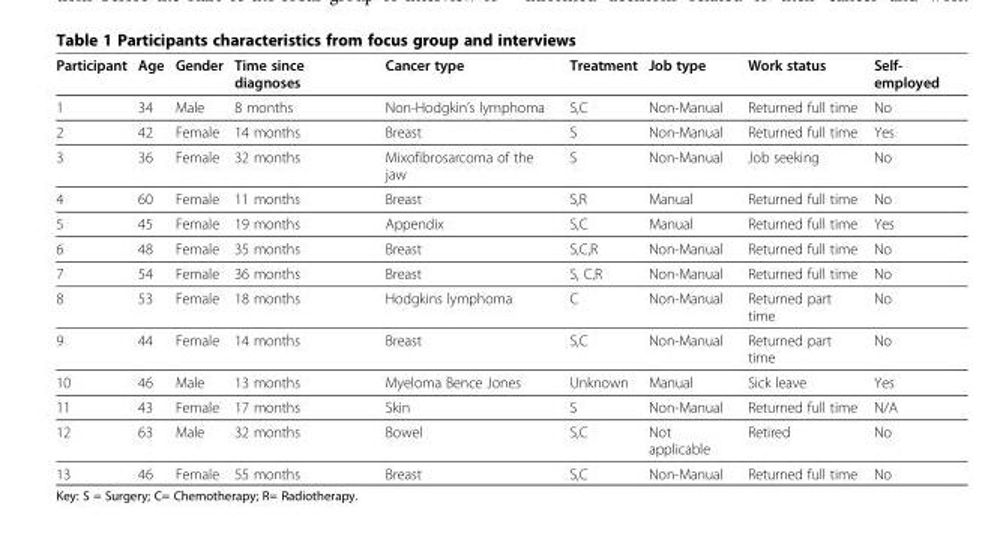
<table><thead><tr><td>Participant</td><td>Age</td><td>Gender</td><td>Time since diagnoses</td><td>Cancer type</td><td>Treatment</td><td>Job type</td><td>Work status</td><td>Self- employed</td></tr></thead><tbody><tr><td>1</td><td>34</td><td>Male</td><td>8 months</td><td>Non-Hodgkin’s lymphoma</td><td>S,C</td><td>Non-Manual</td><td>Returned full time</td><td>No</td></tr><tr><td>2</td><td>42</td><td>Female</td><td>14 months</td><td>Breast</td><td>S</td><td>Non-Manual</td><td>Returned full time</td><td>Yes</td></tr><tr><td>3</td><td>36</td><td>Female</td><td>32 months</td><td>Mixofibrosarcoma of the jaw</td><td>S</td><td>Non-Manual</td><td>Job seeking</td><td>No</td></tr><tr><td>4</td><td>60</td><td>Female</td><td>11 months</td><td>Breast</td><td>S,R</td><td>Manual</td><td>Returned full time</td><td>No</td></tr><tr><td>5</td><td>45</td><td>Female</td><td>19 months</td><td>Appendix</td><td>S,C</td><td>Manual</td><td>Returned full time</td><td>Yes</td></tr><tr><td>6</td><td>48</td><td>Female</td><td>35 months</td><td>Breast</td><td>S,C,R</td><td>Non-Manual</td><td>Returned full time</td><td>No</td></tr><tr><td>7</td><td>54</td><td>Female</td><td>36 months</td><td>Breast</td><td>S, C,R</td><td>Non-Manual</td><td>Returned full time</td><td>No</td></tr><tr><td>8</td><td>53</td><td>Female</td><td>18 months</td><td>Hodgkins lymphoma</td><td>C</td><td>Non-Manual</td><td>Returned part time</td><td>No</td></tr><tr><td>9</td><td>44</td><td>Female</td><td>14 months</td><td>Breast</td><td>S,C</td><td>Non-Manual</td><td>Returned part time</td><td>No</td></tr><tr><td>10</td><td>46</td><td>Male</td><td>13 months</td><td>Myeloma Bence Jones</td><td>Unknown</td><td>Manual</td><td>Sick leave</td><td>Yes</td></tr><tr><td>11</td><td>43</td><td>Female</td><td>17 months</td><td>Skin</td><td>S</td><td>Non-Manual</td><td>Returned full time</td><td>N/A</td></tr><tr><td>12</td><td>63</td><td>Male</td><td>32 months</td><td>Bowel</td><td>S,C</td><td>Not applicable</td><td>Retired</td><td>No</td></tr><tr><td>13</td><td>46</td><td>Female</td><td>55 months</td><td>Breast</td><td>S,C</td><td>Non-Manual</td><td>Returned full time</td><td>No</td></tr></tbody></table>